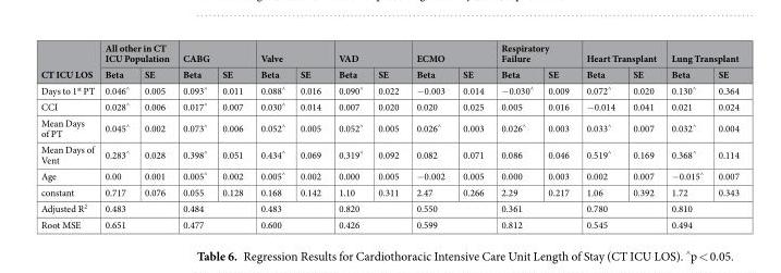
<table><thead><tr><td rowspan="2">CT ICU LOS</td><td colspan="2">All other in CT ICU Population</td><td colspan="2">CABG</td><td colspan="2">Valve</td><td colspan="2">VAD</td><td colspan="2">ECMO</td><td colspan="2">Respiratory Failure</td><td colspan="2">Heart Transplant</td><td colspan="2">Lung Transplant</td></tr><tr><td>Beta</td><td>SE</td><td>Beta</td><td>SE</td><td>Beta</td><td>SE</td><td>Beta</td><td>SE</td><td>Beta</td><td>SE</td><td>Beta</td><td>SE</td><td>Beta</td><td>SE</td><td>Beta</td><td>SE</td></tr></thead><tbody><tr><td>Days to 1<sup>st</sup> PT</td><td>0.046<sup>^</sup></td><td>0.005</td><td>0.093<sup>^</sup></td><td>0.011</td><td>0.088<sup>^</sup></td><td>0.016</td><td>0.090<sup>^</sup></td><td>0.022</td><td>−0.003</td><td>0.014</td><td>−0.030<sup>^</sup></td><td>0.009</td><td>0.072<sup>^</sup></td><td>0.020</td><td>0.130<sup>^</sup></td><td>0.364</td></tr><tr><td>CCI</td><td>0.028<sup>^</sup></td><td>0.006</td><td>0.017<sup>^</sup></td><td>0.007</td><td>0.030<sup>^</sup></td><td>0.014</td><td>0.007</td><td>0.020</td><td>0.020</td><td>0.025</td><td>0.005</td><td>0.016</td><td>−0.014</td><td>0.041</td><td>0.021</td><td>0.024</td></tr><tr><td>Mean Days of PT</td><td>0.045<sup>^</sup></td><td>0.002</td><td>0.073<sup>^</sup></td><td>0.006</td><td>0.052<sup>^</sup></td><td>0.005</td><td>0.052<sup>^</sup></td><td>0.005</td><td>0.026<sup>^</sup></td><td>0.003</td><td>0.026<sup>^</sup></td><td>0.003</td><td>0.033<sup>^</sup></td><td>0.007</td><td>0.032<sup>^</sup></td><td>0.004</td></tr><tr><td>Mean Days of Vent</td><td>0.283<sup>^</sup></td><td>0.028</td><td>0.398<sup>^</sup></td><td>0.051</td><td>0.434<sup>^</sup></td><td>0.069</td><td>0.319<sup>^</sup></td><td>0.092</td><td>0.082</td><td>0.071</td><td>0.086</td><td>0.046</td><td>0.519<sup>^</sup></td><td>0.169</td><td>0.368<sup>^</sup></td><td>0.114</td></tr><tr><td>Age</td><td>0.00</td><td>0.001</td><td>0.005<sup>^</sup></td><td>0.002</td><td>0.005<sup>^</sup></td><td>0.002</td><td>0.000</td><td>0.005</td><td>−0.002</td><td>0.005</td><td>0.000</td><td>0.003</td><td>0.002</td><td>0.007</td><td>−0.015<sup>^</sup></td><td>0.007</td></tr><tr><td>constant</td><td>0.717</td><td>0.076</td><td>0.055</td><td>0.128</td><td>0.168</td><td>0.142</td><td>1.10</td><td>0.311</td><td>2.47</td><td>0.266</td><td>2.29</td><td>0.217</td><td>1.06</td><td>0.392</td><td>1.72</td><td>0.343</td></tr><tr><td>Adjusted R<sup>2</sup></td><td colspan="2">0.483</td><td colspan="2">0.484</td><td colspan="2">0.483</td><td colspan="2">0.820</td><td colspan="2">0.550</td><td colspan="2">0.361</td><td colspan="2">0.780</td><td colspan="2">0.810</td></tr><tr><td>Root MSE</td><td colspan="2">0.651</td><td colspan="2">0.477</td><td colspan="2">0.600</td><td colspan="2">0.426</td><td colspan="2">0.599</td><td colspan="2">0.812</td><td colspan="2">0.545</td><td colspan="2">0.494</td></tr></tbody></table>